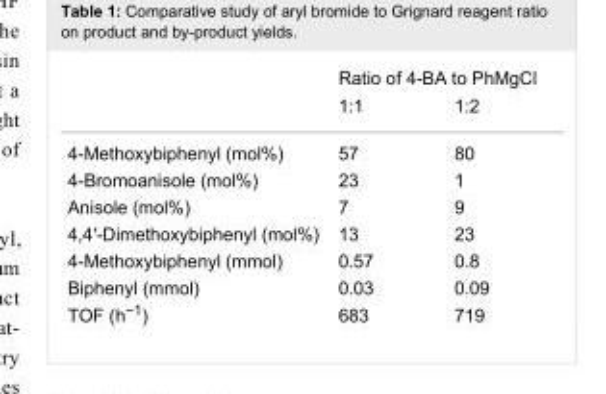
<table><thead><tr><td rowspan="2"></td><td colspan="2">Ratio of 4-BA to PhMgCl</td></tr><tr><td>1:1</td><td>1:2</td></tr></thead><tbody><tr><td>4-Methoxybiphenyl (mol%)</td><td>57</td><td>80</td></tr><tr><td>4-Bromoanisole (mol%)</td><td>23</td><td>1</td></tr><tr><td>Anisole (mol%)</td><td>7</td><td>9</td></tr><tr><td>4,4′-Dimethoxybiphenyl (mol%)</td><td>13</td><td>23</td></tr><tr><td>4-Methoxybiphenyl (mmol)</td><td>0.57</td><td>0.8</td></tr><tr><td>Biphenyl (mmol)</td><td>0.03</td><td>0.09</td></tr><tr><td>TOF (h<sup>−1</sup>)</td><td>683</td><td>719</td></tr></tbody></table>